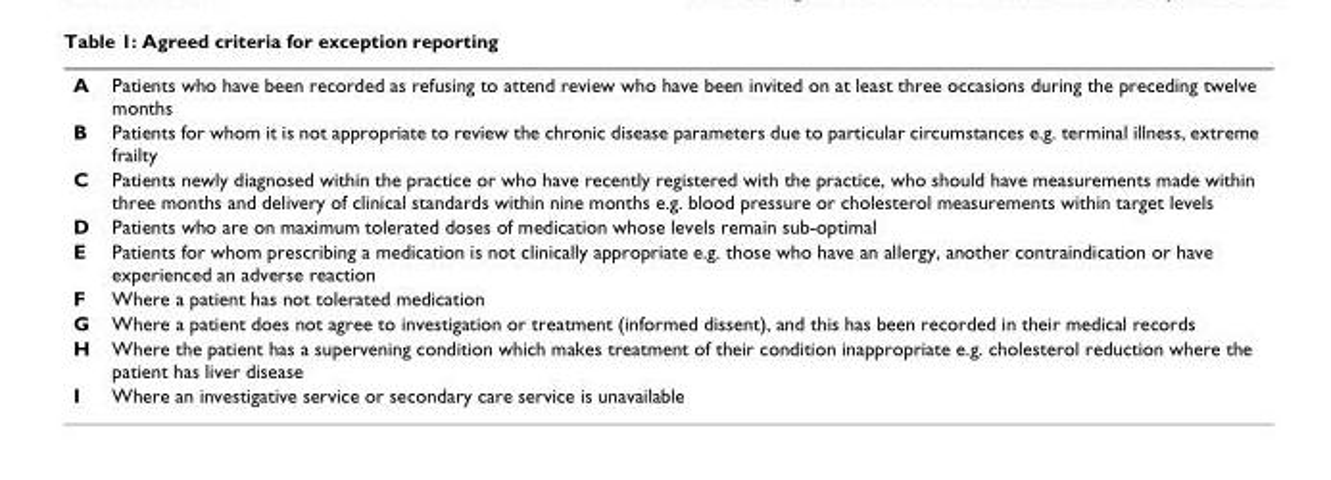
<table><tbody><tr><td>A</td><td>Patients who have been recorded as refusing to attend review who have been invited on at least three occasions during the preceding twelve months</td></tr><tr><td>B</td><td>Patients for whom it is not appropriate to review the chronic disease parameters due to particular circumstances e.g. terminal illness, extreme frailty</td></tr><tr><td>C</td><td>Patients newly diagnosed within the practice or who have recently registered with the practice, who should have measurements made within three months and delivery of clinical standards within nine months e.g. blood pressure or cholesterol measurements within target levels</td></tr><tr><td>D</td><td>Patients who are on maximum tolerated doses of medication whose levels remain sub-optimal</td></tr><tr><td>E</td><td>Patients for whom prescribing a medication is not clinically appropriate e.g. those who have an allergy, another contraindication or have experienced an adverse reaction</td></tr><tr><td>F</td><td>Where a patient has not tolerated medication</td></tr><tr><td>G</td><td>Where a patient does not agree to investigation or treatment (informed dissent), and this has been recorded in their medical records</td></tr><tr><td>H</td><td>Where the patient has a supervening condition which makes treatment of their condition inappropriate e.g. cholesterol reduction where the patient has liver disease</td></tr><tr><td>I</td><td>Where an investigative service or secondary care service is unavailable</td></tr></tbody></table>